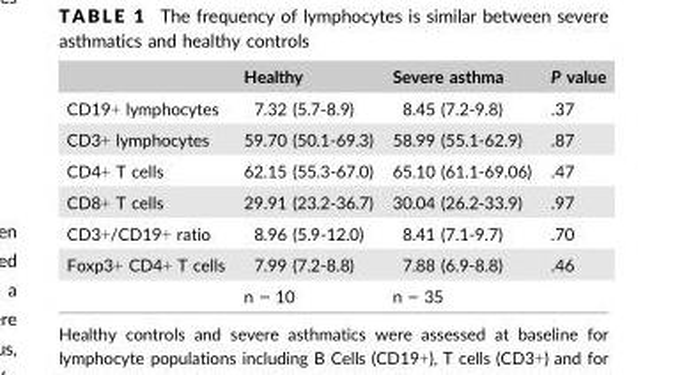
<table><thead><tr><td></td><td>Healthy</td><td>Severe asthma</td><td>P value</td></tr></thead><tbody><tr><td>CD19+ lymphocytes</td><td>7.32 (5.7-8.9)</td><td>8.45 (7.2-9.8)</td><td>.37</td></tr><tr><td>CD3+ lymphocytes</td><td>59.70 (50.1-69.3)</td><td>58.99 (55.1-62.9)</td><td>.87</td></tr><tr><td>CD4+ T cells</td><td>62.15 (55.3-67.0)</td><td>65.10 (61.1-69.06)</td><td>.47</td></tr><tr><td>CD8+ T cells</td><td>29.91 (23.2-36.7)</td><td>30.04 (26.2-33.9)</td><td>.97</td></tr><tr><td>CD3+/CD19+ ratio</td><td>8.96 (5.9-12.0)</td><td>8.41 (7.1-9.7)</td><td>.70</td></tr><tr><td rowspan="2">Foxp3+ CD4+ T cells</td><td>7.99 (7.2-8.8)</td><td>7.88 (6.9-8.8)</td><td>.46</td></tr><tr><td>n = 10</td><td>n = 35</td><td></td></tr></tbody></table>